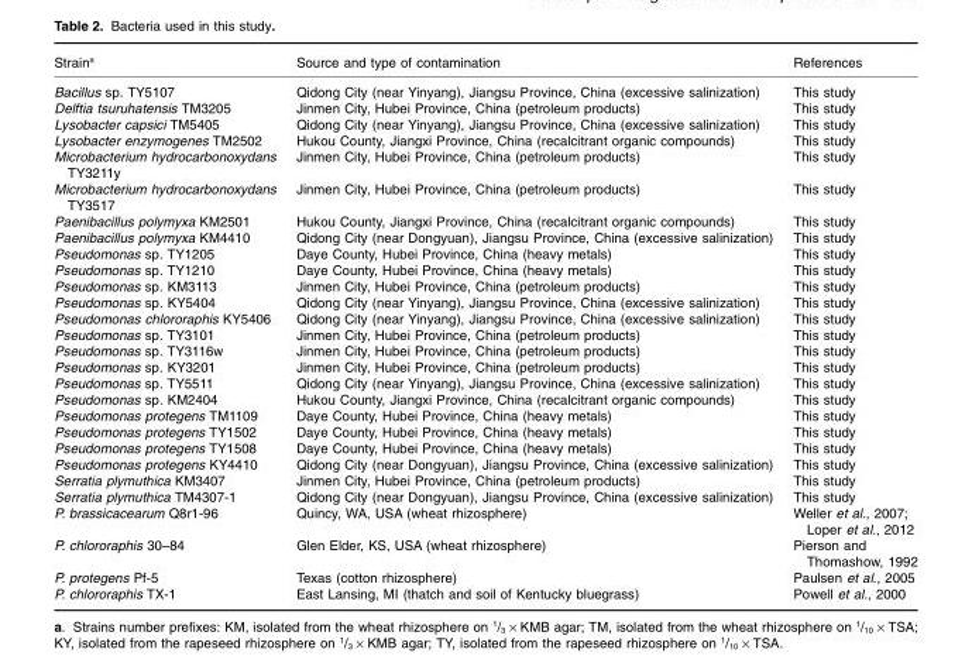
<table><thead><tr><td>Strain<sup>a</sup></td><td>Source and type of contamination</td><td>References</td></tr></thead><tbody><tr><td>Bacillus sp. TY5107</td><td>Qidong City (near Yinyang), Jiangsu Province, China (excessive salinization)</td><td>This study</td></tr><tr><td>Delftia tsuruhatensis TM3205</td><td>Jinmen City, Hubei Province, China (petroleum products)</td><td>This study</td></tr><tr><td>Lysobacter capsici TM5405</td><td>Qidong City (near Yinyang), Jiangsu Province, China (excessive salinization)</td><td>This study</td></tr><tr><td>Lysobacter enzymogenes TM2502</td><td>Hukou County, Jiangxi Province, China (recalcitrant organic compounds)</td><td>This study</td></tr><tr><td>Microbacterium hydrocarbonoxydans TY3211y</td><td>Jinmen City, Hubei Province, China (petroleum products)</td><td>This study</td></tr><tr><td>Microbacterium hydrocarbonoxydans TY3517</td><td>Jinmen City, Hubei Province, China (petroleum products)</td><td>This study</td></tr><tr><td>Paenibacillus polymyxa KM2501</td><td>Hukou County, Jiangxi Province, China (recalcitrant organic compounds)</td><td>This study</td></tr><tr><td>Paenibacillus polymyxa KM4410</td><td>Qidong City (near Dongyuan), Jiangsu Province, China (excessive salinization)</td><td>This study</td></tr><tr><td>Pseudomonas sp. TY1205</td><td>Daye County, Hubei Province, China (heavy metals)</td><td>This study</td></tr><tr><td>Pseudomonas sp. TY1210</td><td>Daye County, Hubei Province, China (heavy metals)</td><td>This study</td></tr><tr><td>Pseudomonas sp. KM3113</td><td>Jinmen City, Hubei Province, China (petroleum products)</td><td>This study</td></tr><tr><td>Pseudomonas sp. KY5404</td><td>Qidong City (near Yinyang), Jiangsu Province, China (excessive salinization)</td><td>This study</td></tr><tr><td>Pseudomonas chlororaphis KY5406</td><td>Qidong City (near Yinyang), Jiangsu Province, China (excessive salinization)</td><td>This study</td></tr><tr><td>Pseudomonas sp. TY3101</td><td>Jinmen City, Hubei Province, China (petroleum products)</td><td>This study</td></tr><tr><td>Pseudomonas sp. TY3116w</td><td>Jinmen City, Hubei Province, China (petroleum products)</td><td>This study</td></tr><tr><td>Pseudomonas sp. KY3201</td><td>Jinmen City, Hubei Province, China (petroleum products)</td><td>This study</td></tr><tr><td>Pseudomonas sp. TY5511</td><td>Qidong City (near Yinyang), Jiangsu Province, China (excessive salinization)</td><td>This study</td></tr><tr><td>Pseudomonas sp. KM2404</td><td>Hukou County, Jiangxi Province, China (recalcitrant organic compounds)</td><td>This study</td></tr><tr><td>Pseudomonas protegens TM1109</td><td>Daye County, Hubei Province, China (heavy metals)</td><td>This study</td></tr><tr><td>Pseudomonas protegens TY1502</td><td>Daye County, Hubei Province, China (heavy metals)</td><td>This study</td></tr><tr><td>Pseudomonas protegens TY1508</td><td>Daye County, Hubei Province, China (heavy metals)</td><td>This study</td></tr><tr><td>Pseudomonas protegens KY4410</td><td>Qidong City (near Dongyuan), Jiangsu Province, China (excessive salinization)</td><td>This study</td></tr><tr><td>Serratia plymuthica KM3407</td><td>Jinmen City, Hubei Province, China (petroleum products)</td><td>This study</td></tr><tr><td>Serratia plymuthica TM4307-1</td><td>Qidong City (near Dongyuan), Jiangsu Province, China (excessive salinization)</td><td>This study</td></tr><tr><td>P. brassicacearum Q8r1-96</td><td>Quincy, WA, USA (wheat rhizosphere)</td><td>Weller et al., 2007; Loper et al., 2012</td></tr><tr><td>P. chlororaphis 30–84</td><td>Glen Elder, KS, USA (wheat rhizosphere)</td><td>Pierson and Thomashow, 1992</td></tr><tr><td>P. protegens Pf-5</td><td>Texas (cotton rhizosphere)</td><td>Paulsen et al., 2005</td></tr><tr><td>P. chlororaphis TX-1</td><td>East Lansing, MI (thatch and soil of Kentucky bluegrass)</td><td>Powell et al., 2000</td></tr></tbody></table>